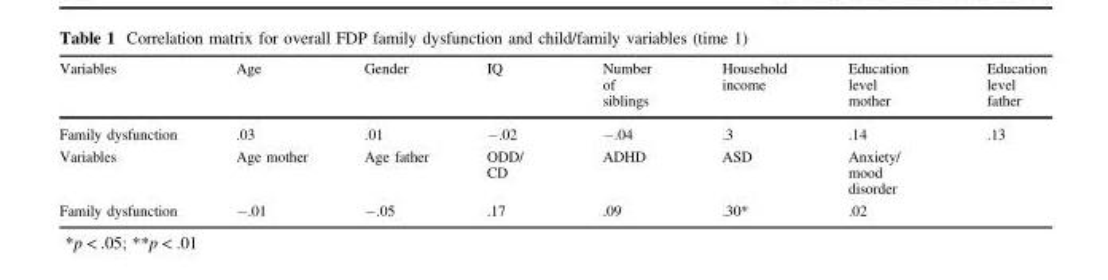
<table><thead><tr><td>Variables</td><td>Age</td><td>Gender</td><td>IQ</td><td>Number of siblings</td><td>Household income</td><td>Education level mother</td><td>Education level father</td></tr></thead><tbody><tr><td>Family dysfunction</td><td>.03</td><td>.01</td><td>−.02</td><td>−.04</td><td>.3</td><td>.14</td><td>.13</td></tr><tr><td>Variables</td><td>Age mother</td><td>Age father</td><td>ODD/ CD</td><td>ADHD</td><td>ASD</td><td>Anxiety/ mood disorder</td><td></td></tr><tr><td>Family dysfunction</td><td>−.01</td><td>−.05</td><td>.17</td><td>.09</td><td>.30*</td><td>.02</td><td></td></tr></tbody></table>